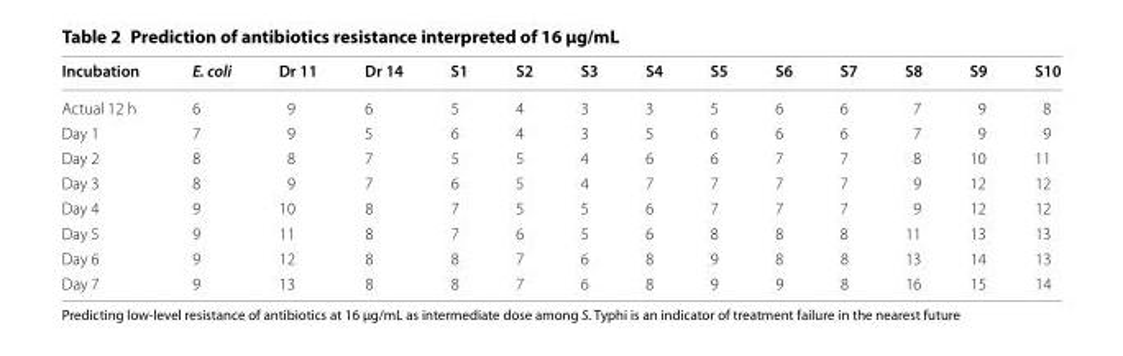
<table><thead><tr><td>Incubation</td><td>E. coli</td><td>Dr 11</td><td>Dr 14</td><td>S1</td><td>S2</td><td>S3</td><td>S4</td><td>S5</td><td>S6</td><td>S7</td><td>S8</td><td>S9</td><td>S10</td></tr></thead><tbody><tr><td>Actual 12 h</td><td>6</td><td>9</td><td>6</td><td>5</td><td>4</td><td>3</td><td>3</td><td>5</td><td>6</td><td>6</td><td>7</td><td>9</td><td>8</td></tr><tr><td>Day 1</td><td>7</td><td>9</td><td>5</td><td>6</td><td>4</td><td>3</td><td>5</td><td>6</td><td>6</td><td>6</td><td>7</td><td>9</td><td>9</td></tr><tr><td>Day 2</td><td>8</td><td>8</td><td>7</td><td>5</td><td>5</td><td>4</td><td>6</td><td>6</td><td>7</td><td>7</td><td>8</td><td>10</td><td>11</td></tr><tr><td>Day 3</td><td>8</td><td>9</td><td>7</td><td>6</td><td>5</td><td>4</td><td>7</td><td>7</td><td>7</td><td>7</td><td>9</td><td>12</td><td>12</td></tr><tr><td>Day 4</td><td>9</td><td>10</td><td>8</td><td>7</td><td>5</td><td>5</td><td>6</td><td>7</td><td>7</td><td>7</td><td>9</td><td>12</td><td>12</td></tr><tr><td>Day 5</td><td>9</td><td>11</td><td>8</td><td>7</td><td>6</td><td>5</td><td>6</td><td>8</td><td>8</td><td>8</td><td>11</td><td>13</td><td>13</td></tr><tr><td>Day 6</td><td>9</td><td>12</td><td>8</td><td>8</td><td>7</td><td>6</td><td>8</td><td>9</td><td>8</td><td>8</td><td>13</td><td>14</td><td>13</td></tr><tr><td>Day 7</td><td>9</td><td>13</td><td>8</td><td>8</td><td>7</td><td>6</td><td>8</td><td>9</td><td>9</td><td>8</td><td>16</td><td>15</td><td>14</td></tr></tbody></table>